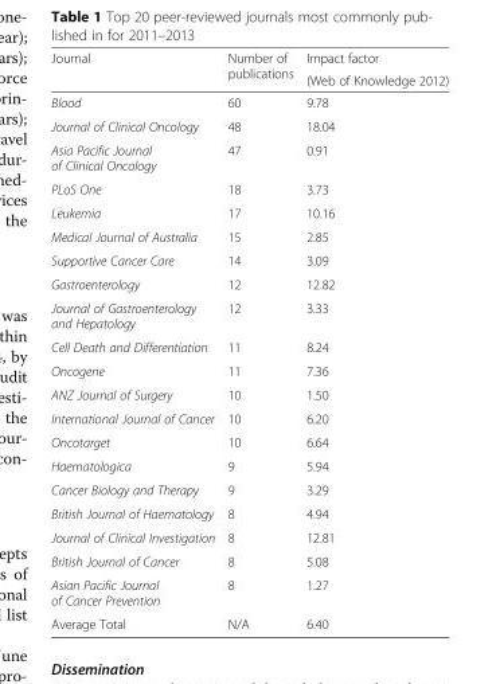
<table><thead><tr><td rowspan="2">Journal</td><td rowspan="2">Number of publications</td><td rowspan="2">Impact factor (Web of Knowledge 2012)</td></tr><tr></tr></thead><tbody><tr><td>Blood</td><td>60</td><td>9.78</td></tr><tr><td>Journal of Clinical Oncology</td><td>48</td><td>18.04</td></tr><tr><td>Asia Pacific Journal of Clinical Oncology</td><td>47</td><td>0.91</td></tr><tr><td>PLoS One</td><td>18</td><td>3.73</td></tr><tr><td>Leukemia</td><td>17</td><td>10.16</td></tr><tr><td>Medical Journal of Australia</td><td>15</td><td>2.85</td></tr><tr><td>Supportive Cancer Care</td><td>14</td><td>3.09</td></tr><tr><td>Gastroenterology</td><td>12</td><td>12.82</td></tr><tr><td>Journal of Gastroenterology and Hepatology</td><td>12</td><td>3.33</td></tr><tr><td>Cell Death and Differentiation</td><td>11</td><td>8.24</td></tr><tr><td>Oncogene</td><td>11</td><td>7.36</td></tr><tr><td>ANZ Journal of Surgery</td><td>10</td><td>1.50</td></tr><tr><td>International Journal of Cancer</td><td>10</td><td>6.20</td></tr><tr><td>Oncotarget</td><td>10</td><td>6.64</td></tr><tr><td>Haematologica</td><td>9</td><td>5.94</td></tr><tr><td>Cancer Biology and Therapy</td><td>9</td><td>3.29</td></tr><tr><td>British Journal of Haematology</td><td>8</td><td>4.94</td></tr><tr><td>Journal of Clinical Investigation</td><td>8</td><td>12.81</td></tr><tr><td>British Journal of Cancer</td><td>8</td><td>5.08</td></tr><tr><td>Asian Pacific Journal of Cancer Prevention</td><td>8</td><td>1.27</td></tr><tr><td>Average Total</td><td>N/A</td><td>6.40</td></tr></tbody></table>